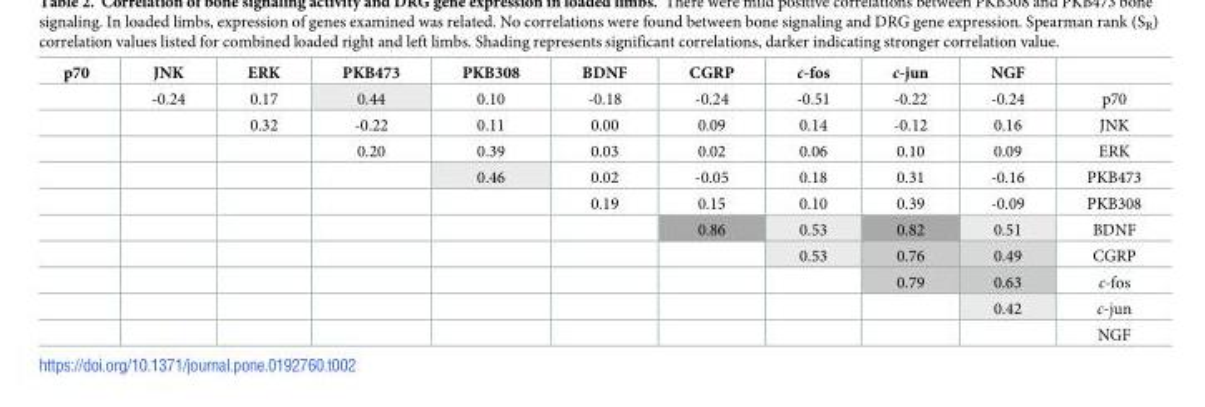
<table><thead><tr><td>p70</td><td>JNK</td><td>ERK</td><td>PKB473</td><td>PKB308</td><td>BDNF</td><td>CGRP</td><td>c-fos</td><td>c-jun</td><td>NGF</td><td></td></tr></thead><tbody><tr><td></td><td>-0.24</td><td>0.17</td><td>0.44</td><td>0.10</td><td>-0.18</td><td>-0.24</td><td>-0.51</td><td>-0.22</td><td>-0.24</td><td>p70</td></tr><tr><td></td><td></td><td>0.32</td><td>-0.22</td><td>0.11</td><td>0.00</td><td>0.09</td><td>0.14</td><td>-0.12</td><td>0.16</td><td>JNK</td></tr><tr><td></td><td></td><td></td><td>0.20</td><td>0.39</td><td>0.03</td><td>0.02</td><td>0.06</td><td>0.10</td><td>0.09</td><td>ERK</td></tr><tr><td></td><td></td><td></td><td></td><td>0.46</td><td>0.02</td><td>-0.05</td><td>0.18</td><td>0.31</td><td>-0.16</td><td>PKB473</td></tr><tr><td></td><td></td><td></td><td></td><td></td><td>0.19</td><td>0.15</td><td>0.10</td><td>0.39</td><td>-0.09</td><td>PKB308</td></tr><tr><td></td><td></td><td></td><td></td><td></td><td></td><td>0.86</td><td>0.53</td><td>0.82</td><td>0.51</td><td>BDNF</td></tr><tr><td></td><td></td><td></td><td></td><td></td><td></td><td></td><td>0.53</td><td>0.76</td><td>0.49</td><td>CGRP</td></tr><tr><td></td><td></td><td></td><td></td><td></td><td></td><td></td><td></td><td>0.79</td><td>0.63</td><td>c-fos</td></tr><tr><td></td><td></td><td></td><td></td><td></td><td></td><td></td><td></td><td></td><td>0.42</td><td>c-jun</td></tr><tr><td></td><td></td><td></td><td></td><td></td><td></td><td></td><td></td><td></td><td></td><td>NGF</td></tr></tbody></table>